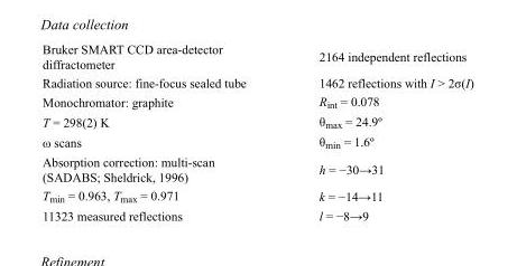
<table><tbody><tr><td>Bruker SMART CCD area-detector diffractometer</td><td>2164 independent reflections</td></tr><tr><td>Radiation source: fine-focus sealed tube</td><td>1462 reflections with I &gt; 2σ(I)</td></tr><tr><td>Monochromator: graphite</td><td>R<sub>int</sub> = 0.078</td></tr><tr><td>T = 298(2) K</td><td>θ<sub>max</sub> = 24.9º</td></tr><tr><td>ω scans</td><td>θ<sub>min</sub> = 1.6º</td></tr><tr><td>Absorption correction: multi-scan (SADABS; Sheldrick, 1996)</td><td>h = −30→31</td></tr><tr><td>T<sub>min</sub> = 0.963, T<sub>max</sub> = 0.971</td><td>k = −14→11</td></tr><tr><td>11323 measured reflections</td><td>l = −8→9</td></tr></tbody></table>